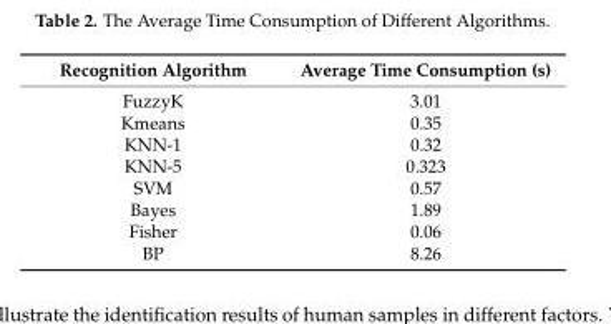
<table><thead><tr><td>Recognition Algorithm</td><td>Average Time Consumption (s)</td></tr></thead><tbody><tr><td>FuzzyK</td><td>3.01</td></tr><tr><td>Kmeans</td><td>0.35</td></tr><tr><td>KNN-1</td><td>0.32</td></tr><tr><td>KNN-5</td><td>0.323</td></tr><tr><td>SVM</td><td>0.57</td></tr><tr><td>Bayes</td><td>1.89</td></tr><tr><td>Fisher</td><td>0.06</td></tr><tr><td>BP</td><td>8.26</td></tr></tbody></table>